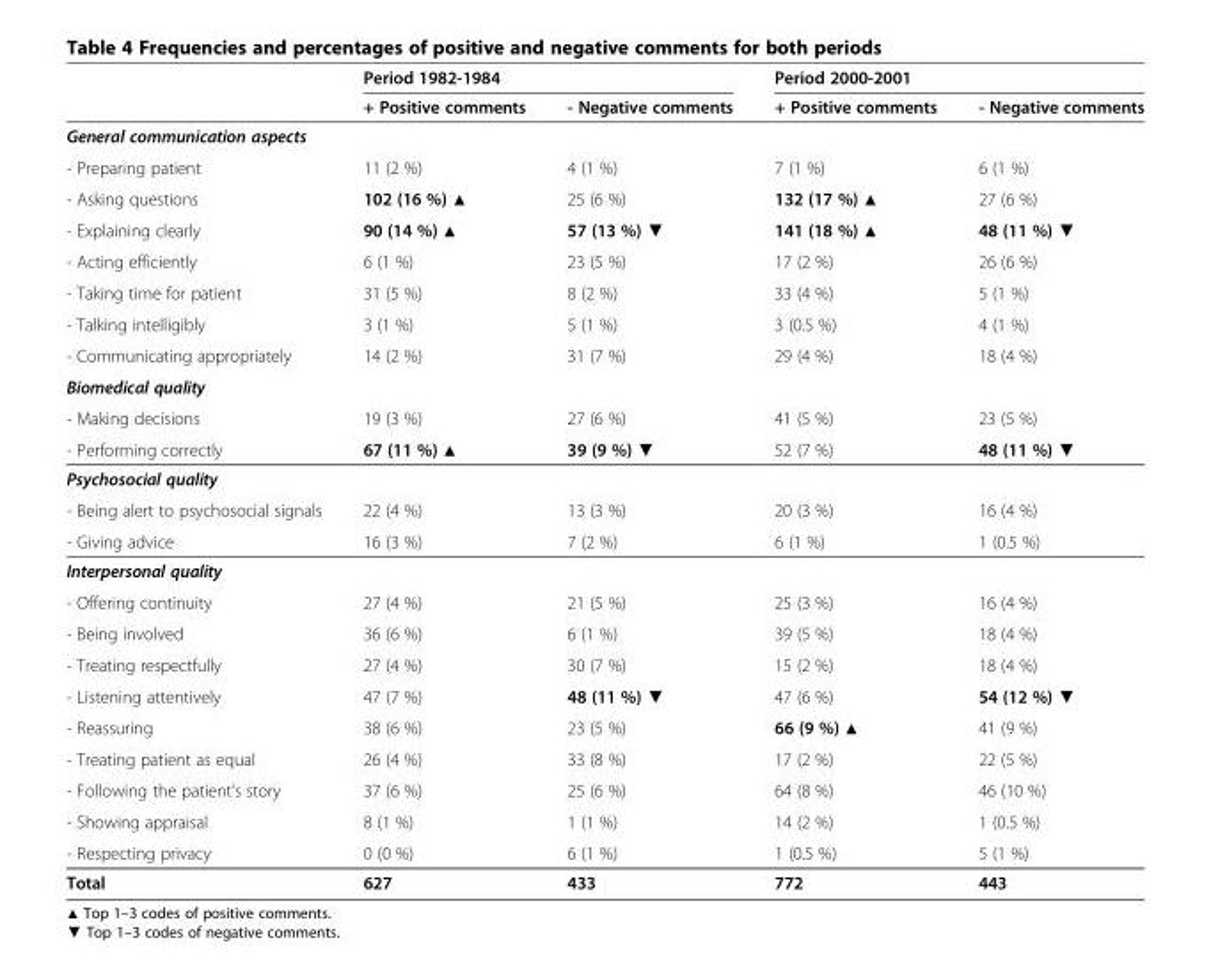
<table><thead><tr><td rowspan="2"></td><td colspan="2">Period 1982-1984</td><td colspan="2">Period 2000-2001</td></tr><tr><td>+ Positive comments</td><td>- Negative comments</td><td>+ Positive comments</td><td>- Negative comments</td></tr></thead><tbody><tr><td colspan="5">General communication aspects</td></tr><tr><td>- Preparing patient</td><td>11 (2 %)</td><td>4 (1 %)</td><td>7 (1 %)</td><td>6 (1 %)</td></tr><tr><td>- Asking questions</td><td>102 (16 %) ▲</td><td>25 (6 %)</td><td>132 (17 %) ▲</td><td>27 (6 %)</td></tr><tr><td>- Explaining clearly</td><td>90 (14 %) ▲</td><td>57 (13 %) ▼</td><td>141 (18 %) ▲</td><td>48 (11 %) ▼</td></tr><tr><td>- Acting efficiently</td><td>6 (1 %)</td><td>23 (5 %)</td><td>17 (2 %)</td><td>26 (6 %)</td></tr><tr><td>- Taking time for patient</td><td>31 (5 %)</td><td>8 (2 %)</td><td>33 (4 %)</td><td>5 (1 %)</td></tr><tr><td>- Talking intelligibly</td><td>3 (1 %)</td><td>5 (1 %)</td><td>3 (0.5 %)</td><td>4 (1 %)</td></tr><tr><td>- Communicating appropriately</td><td>14 (2 %)</td><td>31 (7 %)</td><td>29 (4 %)</td><td>18 (4 %)</td></tr><tr><td colspan="5">Biomedical quality</td></tr><tr><td>- Making decisions</td><td>19 (3 %)</td><td>27 (6 %)</td><td>41 (5 %)</td><td>23 (5 %)</td></tr><tr><td>- Performing correctly</td><td>67 (11 %) ▲</td><td>39 (9 %) ▼</td><td>52 (7 %)</td><td>48 (11 %) ▼</td></tr><tr><td colspan="5">Psychosocial quality</td></tr><tr><td>- Being alert to psychosocial signals</td><td>22 (4 %)</td><td>13 (3 %)</td><td>20 (3 %)</td><td>16 (4 %)</td></tr><tr><td>- Giving advice</td><td>16 (3 %)</td><td>7 (2 %)</td><td>6 (1 %)</td><td>1 (0.5 %)</td></tr><tr><td colspan="5">Interpersonal quality</td></tr><tr><td>- Offering continuity</td><td>27 (4 %)</td><td>21 (5 %)</td><td>25 (3 %)</td><td>16 (4 %)</td></tr><tr><td>- Being involved</td><td>36 (6 %)</td><td>6 (1 %)</td><td>39 (5 %)</td><td>18 (4 %)</td></tr><tr><td>- Treating respectfully</td><td>27 (4 %)</td><td>30 (7 %)</td><td>15 (2 %)</td><td>18 (4 %)</td></tr><tr><td>- Listening attentively</td><td>47 (7 %)</td><td>48 (11 %) ▼</td><td>47 (6 %)</td><td>54 (12 %) ▼</td></tr><tr><td>- Reassuring</td><td>38 (6 %)</td><td>23 (5 %)</td><td>66 (9 %) ▲</td><td>41 (9 %)</td></tr><tr><td>- Treating patient as equal</td><td>26 (4 %)</td><td>33 (8 %)</td><td>17 (2 %)</td><td>22 (5 %)</td></tr><tr><td>- Following the patient’s story</td><td>37 (6 %)</td><td>25 (6 %)</td><td>64 (8 %)</td><td>46 (10 %)</td></tr><tr><td>- Showing appraisal</td><td>8 (1 %)</td><td>1 (1 %)</td><td>14 (2 %)</td><td>1 (0.5 %)</td></tr><tr><td>- Respecting privacy</td><td>0 (0 %)</td><td>6 (1 %)</td><td>1 (0.5 %)</td><td>5 (1 %)</td></tr><tr><td>Total</td><td>627</td><td>433</td><td>772</td><td>443</td></tr></tbody></table>